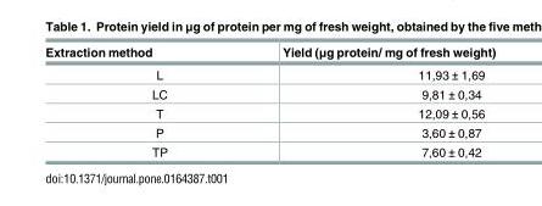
<table><thead><tr><td>Extraction method</td><td>Yield (μg protein/ mg of fresh weight)</td></tr></thead><tbody><tr><td>L</td><td>11,93 ± 1,69</td></tr><tr><td>LC</td><td>9,81 ± 0,34</td></tr><tr><td>T</td><td>12,09 ± 0,56</td></tr><tr><td>P</td><td>3,60 ± 0,87</td></tr><tr><td>TP</td><td>7,60 ± 0,42</td></tr></tbody></table>